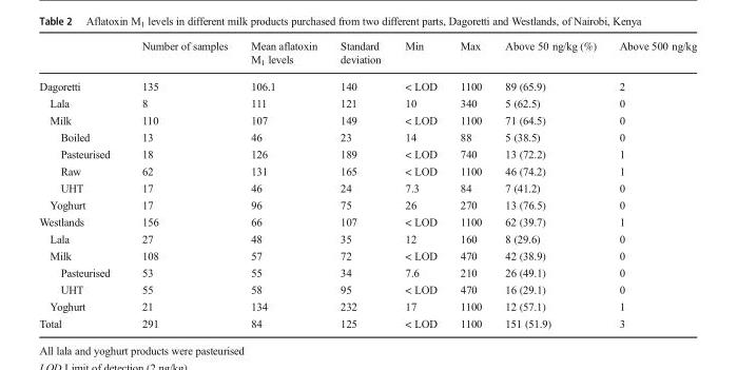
<table><thead><tr><td></td><td>Number of samples</td><td>Mean aflatoxin M<sub>1</sub> levels</td><td>Standard deviation</td><td>Min</td><td>Max</td><td>Above 50 ng/kg (%)</td><td>Above 500 ng/kg</td></tr></thead><tbody><tr><td>Dagoretti</td><td>135</td><td>106.1</td><td>140</td><td>&lt; LOD</td><td>1100</td><td>89 (65.9)</td><td>2</td></tr><tr><td>Lala</td><td>8</td><td>111</td><td>121</td><td>10</td><td>340</td><td>5 (62.5)</td><td>0</td></tr><tr><td>Milk</td><td>110</td><td>107</td><td>149</td><td>&lt; LOD</td><td>1100</td><td>71 (64.5)</td><td>0</td></tr><tr><td>Boiled</td><td>13</td><td>46</td><td>23</td><td>14</td><td>88</td><td>5 (38.5)</td><td>0</td></tr><tr><td>Pasteurised</td><td>18</td><td>126</td><td>189</td><td>&lt; LOD</td><td>740</td><td>13 (72.2)</td><td>1</td></tr><tr><td>Raw</td><td>62</td><td>131</td><td>165</td><td>&lt; LOD</td><td>1100</td><td>46 (74.2)</td><td>1</td></tr><tr><td>UHT</td><td>17</td><td>46</td><td>24</td><td>7.3</td><td>84</td><td>7 (41.2)</td><td>0</td></tr><tr><td>Yoghurt</td><td>17</td><td>96</td><td>75</td><td>26</td><td>270</td><td>13 (76.5)</td><td>0</td></tr><tr><td>Westlands</td><td>156</td><td>66</td><td>107</td><td>&lt; LOD</td><td>1100</td><td>62 (39.7)</td><td>1</td></tr><tr><td>Lala</td><td>27</td><td>48</td><td>35</td><td>12</td><td>160</td><td>8 (29.6)</td><td>0</td></tr><tr><td>Milk</td><td>108</td><td>57</td><td>72</td><td>&lt; LOD</td><td>470</td><td>42 (38.9)</td><td>0</td></tr><tr><td>Pasteurised</td><td>53</td><td>55</td><td>34</td><td>7.6</td><td>210</td><td>26 (49.1)</td><td>0</td></tr><tr><td>UHT</td><td>55</td><td>58</td><td>95</td><td>&lt; LOD</td><td>470</td><td>16 (29.1)</td><td>0</td></tr><tr><td>Yoghurt</td><td>21</td><td>134</td><td>232</td><td>17</td><td>1100</td><td>12 (57.1)</td><td>1</td></tr><tr><td>Total</td><td>291</td><td>84</td><td>125</td><td>&lt; LOD</td><td>1100</td><td>151 (51.9)</td><td>3</td></tr></tbody></table>